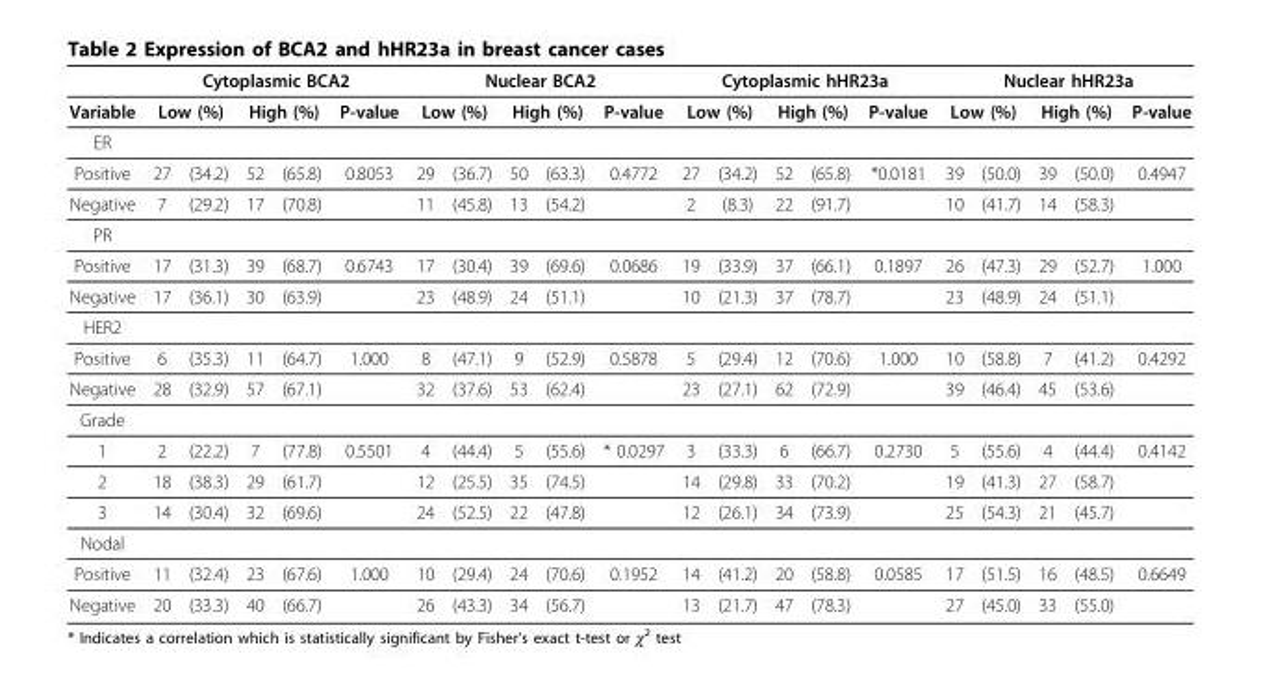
<table><thead><tr><td rowspan="3">Variable ER</td><td colspan="5">Cytoplasmic BCA2</td><td colspan="5">Nuclear BCA2</td><td colspan="5">Cytoplasmic hHR23a</td><td colspan="5">Nuclear hHR23a</td></tr><tr><td colspan="2">Low (%)</td><td colspan="2">High (%)</td><td rowspan="2">P-value</td><td colspan="2">Low (%)</td><td colspan="2">High (%)</td><td rowspan="2">P-value</td><td colspan="2">Low (%)</td><td colspan="2">High (%)</td><td rowspan="2">P-value</td><td colspan="2">Low (%)</td><td colspan="2">High (%)</td><td rowspan="2">P-value</td></tr><tr><td></td><td></td><td></td><td></td><td></td><td></td><td></td><td></td><td></td><td></td><td></td><td></td><td></td><td></td><td></td><td></td></tr></thead><tbody><tr><td>Positive</td><td>27</td><td>(34.2)</td><td>52</td><td>(65.8)</td><td>0.8053</td><td>29</td><td>(36.7)</td><td>50</td><td>(63.3)</td><td>0.4772</td><td>27</td><td>(34.2)</td><td>52</td><td>(65.8)</td><td>*0.0181</td><td>39</td><td>(50.0)</td><td>39</td><td>(50.0)</td><td>0.4947</td></tr><tr><td>Negative</td><td>7</td><td>(29.2)</td><td>17</td><td>(70.8)</td><td></td><td>11</td><td>(45.8)</td><td>13</td><td>(54.2)</td><td></td><td>2</td><td>(8.3)</td><td>22</td><td>(91.7)</td><td></td><td>10</td><td>(41.7)</td><td>14</td><td>(58.3)</td><td></td></tr><tr><td colspan="21">PR</td></tr><tr><td>Positive</td><td>17</td><td>(31.3)</td><td>39</td><td>(68.7)</td><td>0.6743</td><td>17</td><td>(30.4)</td><td>39</td><td>(69.6)</td><td>0.0686</td><td>19</td><td>(33.9)</td><td>37</td><td>(66.1)</td><td>0.1897</td><td>26</td><td>(47.3)</td><td>29</td><td>(52.7)</td><td>1.000</td></tr><tr><td>Negative</td><td>17</td><td>(36.1)</td><td>30</td><td>(63.9)</td><td></td><td>23</td><td>(48.9)</td><td>24</td><td>(51.1)</td><td></td><td>10</td><td>(21.3)</td><td>37</td><td>(78.7)</td><td></td><td>23</td><td>(48.9)</td><td>24</td><td>(51.1)</td><td></td></tr><tr><td colspan="21">HER2</td></tr><tr><td>Positive</td><td>6</td><td>(35.3)</td><td>11</td><td>(64.7)</td><td>1.000</td><td>8</td><td>(47.1)</td><td>9</td><td>(52.9)</td><td>0.5878</td><td>5</td><td>(29.4)</td><td>12</td><td>(70.6)</td><td>1.000</td><td>10</td><td>(58.8)</td><td>7</td><td>(41.2)</td><td>0.4292</td></tr><tr><td>Negative</td><td>28</td><td>(32.9)</td><td>57</td><td>(67.1)</td><td></td><td>32</td><td>(37.6)</td><td>53</td><td>(62.4)</td><td></td><td>23</td><td>(27.1)</td><td>62</td><td>(72.9)</td><td></td><td>39</td><td>(46.4)</td><td>45</td><td>(53.6)</td><td></td></tr><tr><td colspan="21">Grade</td></tr><tr><td>1</td><td>2</td><td>(22.2)</td><td>7</td><td>(77.8)</td><td>0.5501</td><td>4</td><td>(44.4)</td><td>5</td><td>(55.6)</td><td>* 0.0297</td><td>3</td><td>(33.3)</td><td>6</td><td>(66.7)</td><td>0.2730</td><td>5</td><td>(55.6)</td><td>4</td><td>(44.4)</td><td>0.4142</td></tr><tr><td>2</td><td>18</td><td>(38.3)</td><td>29</td><td>(61.7)</td><td></td><td>12</td><td>(25.5)</td><td>35</td><td>(74.5)</td><td></td><td>14</td><td>(29.8)</td><td>33</td><td>(70.2)</td><td></td><td>19</td><td>(41.3)</td><td>27</td><td>(58.7)</td><td></td></tr><tr><td>3</td><td>14</td><td>(30.4)</td><td>32</td><td>(69.6)</td><td></td><td>24</td><td>(52.5)</td><td>22</td><td>(47.8)</td><td></td><td>12</td><td>(26.1)</td><td>34</td><td>(73.9)</td><td></td><td>25</td><td>(54.3)</td><td>21</td><td>(45.7)</td><td></td></tr><tr><td colspan="21">Nodal</td></tr><tr><td>Positive</td><td>11</td><td>(32.4)</td><td>23</td><td>(67.6)</td><td>1.000</td><td>10</td><td>(29.4)</td><td>24</td><td>(70.6)</td><td>0.1952</td><td>14</td><td>(41.2)</td><td>20</td><td>(58.8)</td><td>0.0585</td><td>17</td><td>(51.5)</td><td>16</td><td>(48.5)</td><td>0.6649</td></tr><tr><td>Negative</td><td>20</td><td>(33.3)</td><td>40</td><td>(66.7)</td><td></td><td>26</td><td>(43.3)</td><td>34</td><td>(56.7)</td><td></td><td>13</td><td>(21.7)</td><td>47</td><td>(78.3)</td><td></td><td>27</td><td>(45.0)</td><td>33</td><td>(55.0)</td><td></td></tr></tbody></table>